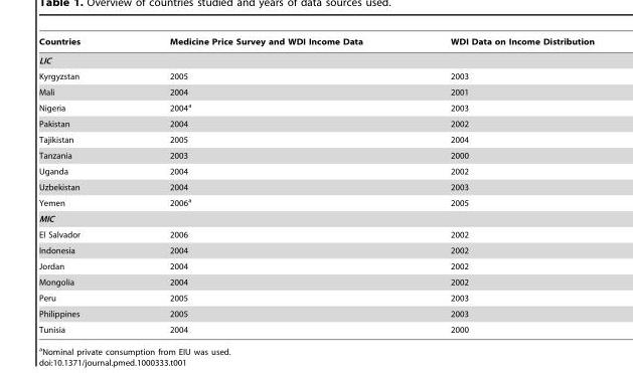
<table><thead><tr><td>Countries</td><td>Medicine Price Survey and WDI Income Data</td><td>WDI Data on Income Distribution</td></tr></thead><tbody><tr><td colspan="3">LIC</td></tr><tr><td>Kyrgyzstan</td><td>2005</td><td>2003</td></tr><tr><td>Mali</td><td>2004</td><td>2001</td></tr><tr><td>Nigeria</td><td>2004<sup>a</sup></td><td>2003</td></tr><tr><td>Pakistan</td><td>2004</td><td>2002</td></tr><tr><td>Tajikistan</td><td>2005</td><td>2004</td></tr><tr><td>Tanzania</td><td>2003</td><td>2000</td></tr><tr><td>Uganda</td><td>2004</td><td>2002</td></tr><tr><td>Uzbekistan</td><td>2004</td><td>2003</td></tr><tr><td>Yemen</td><td>2006<sup>a</sup></td><td>2005</td></tr><tr><td colspan="3">MIC</td></tr><tr><td>El Salvador</td><td>2006</td><td>2002</td></tr><tr><td>Indonesia</td><td>2004</td><td>2002</td></tr><tr><td>Jordan</td><td>2004</td><td>2002</td></tr><tr><td>Mongolia</td><td>2004</td><td>2002</td></tr><tr><td>Peru</td><td>2005</td><td>2003</td></tr><tr><td>Philippines</td><td>2005</td><td>2003</td></tr><tr><td>Tunisia</td><td>2004</td><td>2000</td></tr></tbody></table>